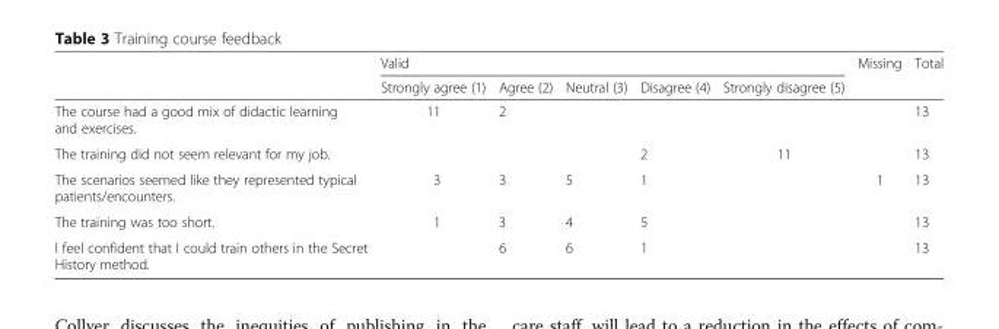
<table><thead><tr><td rowspan="2"></td><td colspan="5">Valid</td><td rowspan="2">Missing</td><td rowspan="2">Total</td></tr><tr><td>Strongly agree (1)</td><td>Agree (2)</td><td>Neutral (3)</td><td>Disagree (4)</td><td>Strongly disagree (5)</td></tr></thead><tbody><tr><td>The course had a good mix of didactic learning and exercises.</td><td>11</td><td>2</td><td></td><td></td><td></td><td></td><td>13</td></tr><tr><td>The training did not seem relevant for my job.</td><td></td><td></td><td></td><td>2</td><td>11</td><td></td><td>13</td></tr><tr><td>The scenarios seemed like they represented typical patients/encounters.</td><td>3</td><td>3</td><td>5</td><td>1</td><td></td><td>1</td><td>13</td></tr><tr><td>The training was too short.</td><td>1</td><td>3</td><td>4</td><td>5</td><td></td><td></td><td>13</td></tr><tr><td>I feel confident that I could train others in the Secret History method.</td><td></td><td>6</td><td>6</td><td>1</td><td></td><td></td><td>13</td></tr></tbody></table>